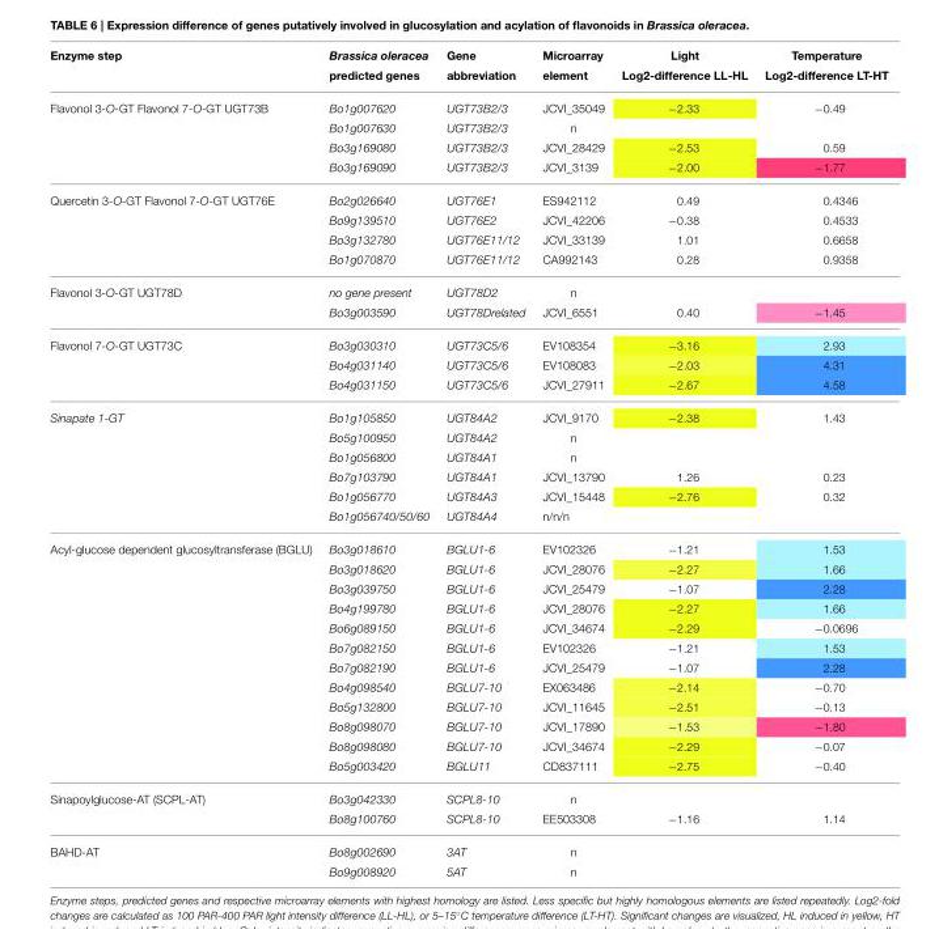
<table><thead><tr><td>Enzyme step</td><td>Brassica oleracea predicted genes</td><td>Gene abbreviation</td><td>Microarray element</td><td>Light Log2-difference LL-HL</td><td>Temperature Log2-difference LT-HT</td></tr></thead><tbody><tr><td rowspan="4">Flavonol 3-O-GT Flavonol 7-O-GT UGT73B</td><td>Bo1g007620</td><td>UGT73B2/3</td><td>JCVI_35049</td><td>−2.33</td><td>−0.49</td></tr><tr><td>Bo1g007630</td><td>UGT73B2/3</td><td>n</td><td></td><td></td></tr><tr><td>Bo3g169080</td><td>UGT73B2/3</td><td>JCVI_28429</td><td>−2.53</td><td>0.59</td></tr><tr><td>Bo3g169090</td><td>UGT73B2/3</td><td>JCVI_3139</td><td>−2.00</td><td>−1.77</td></tr><tr><td rowspan="4">Quercetin 3-O-GT Flavonol 7-O-GT UGT76E</td><td>Bo2g026640</td><td>UGT76E1</td><td>ES942112</td><td>0.49</td><td>0.4346</td></tr><tr><td>Bo9g139510</td><td>UGT76E2</td><td>JCVI_42206</td><td>−0.38</td><td>0.4533</td></tr><tr><td>Bo3g132780</td><td>UGT76E11/12</td><td>JCVI_33139</td><td>1.01</td><td>0.6658</td></tr><tr><td>Bo1g070870</td><td>UGT76E11/12</td><td>CA992143</td><td>0.28</td><td>0.9358</td></tr><tr><td rowspan="2">Flavonol 3-O-GT UGT78D</td><td>no gene present</td><td>UGT78D2</td><td>n</td><td></td><td></td></tr><tr><td>Bo3g003590</td><td>UGT78Drelated</td><td>JCVI_6551</td><td>0.40</td><td>−1.45</td></tr><tr><td rowspan="3">Flavonol 7-O-GT UGT73C</td><td>Bo3g030310</td><td>UGT73C5/6</td><td>EV108354</td><td>−3.16</td><td>2.93</td></tr><tr><td>Bo4g031140</td><td>UGT73C5/6</td><td>EV108083</td><td>−2.03</td><td>4.31</td></tr><tr><td>Bo4g031150</td><td>UGT73C5/6</td><td>JCVI_27911</td><td>−2.67</td><td>4.58</td></tr><tr><td rowspan="6">Sinapate 1-GT</td><td>Bo1g105850</td><td>UGT84A2</td><td>JCVI_9170</td><td>−2.38</td><td>1.43</td></tr><tr><td>Bo5g100950</td><td>UGT84A2</td><td>n</td><td></td><td></td></tr><tr><td>Bo1g056800</td><td>UGT84A1</td><td>n</td><td></td><td></td></tr><tr><td>Bo7g103790</td><td>UGT84A1</td><td>JCVI_13790</td><td>1.26</td><td>0.23</td></tr><tr><td>Bo1g056770</td><td>UGT84A3</td><td>JCVI_15448</td><td>−2.76</td><td>0.32</td></tr><tr><td>Bo1g056740/50/60</td><td>UGT84A4</td><td>n/n/n</td><td></td><td></td></tr><tr><td rowspan="12">Acyl-glucose dependent glucosyltransferase (BGLU)</td><td>Bo3g018610</td><td>BGLU1-6</td><td>EV102326</td><td>−1.21</td><td>1.53</td></tr><tr><td>Bo3g018620</td><td>BGLU1-6</td><td>JCVI_28076</td><td>−2.27</td><td>1.66</td></tr><tr><td>Bo3g039750</td><td>BGLU1-6</td><td>JCVI_25479</td><td>−1.07</td><td>2.28</td></tr><tr><td>Bo4g199780</td><td>BGLU1-6</td><td>JCVI_28076</td><td>−2.27</td><td>1.66</td></tr><tr><td>Bo6g089150</td><td>BGLU1-6</td><td>JCVI_34674</td><td>−2.29</td><td>−0.0696</td></tr><tr><td>Bo7g082150</td><td>BGLU1-6</td><td>EV102326</td><td>−1.21</td><td>1.53</td></tr><tr><td>Bo7g082190</td><td>BGLU1-6</td><td>JCVI_25479</td><td>−1.07</td><td>2.28</td></tr><tr><td>Bo4g098540</td><td>BGLU7-10</td><td>EX063486</td><td>−2.14</td><td>−0.70</td></tr><tr><td>Bo5g132800</td><td>BGLU7-10</td><td>JCVI_11645</td><td>−2.51</td><td>−0.13</td></tr><tr><td>Bo8g098070</td><td>BGLU7-10</td><td>JCVI_17890</td><td>−1.53</td><td>−1.80</td></tr><tr><td>Bo8g098080</td><td>BGLU7-10</td><td>JCVI_34674</td><td>−2.29</td><td>−0.07</td></tr><tr><td>Bo5g003420</td><td>BGLU11</td><td>CD837111</td><td>−2.75</td><td>−0.40</td></tr><tr><td rowspan="2">Sinapoylglucose-AT (SCPL-AT)</td><td>Bo3g042330</td><td>SCPL8-10</td><td>n</td><td></td><td></td></tr><tr><td>Bo8g100760</td><td>SCPL8-10</td><td>EE503308</td><td>−1.16</td><td>1.14</td></tr><tr><td rowspan="2">BAHD-AT</td><td>Bo8g002690</td><td>3AT</td><td>n</td><td></td><td></td></tr><tr><td>Bo9g008920</td><td>5AT</td><td>n</td><td></td><td></td></tr></tbody></table>